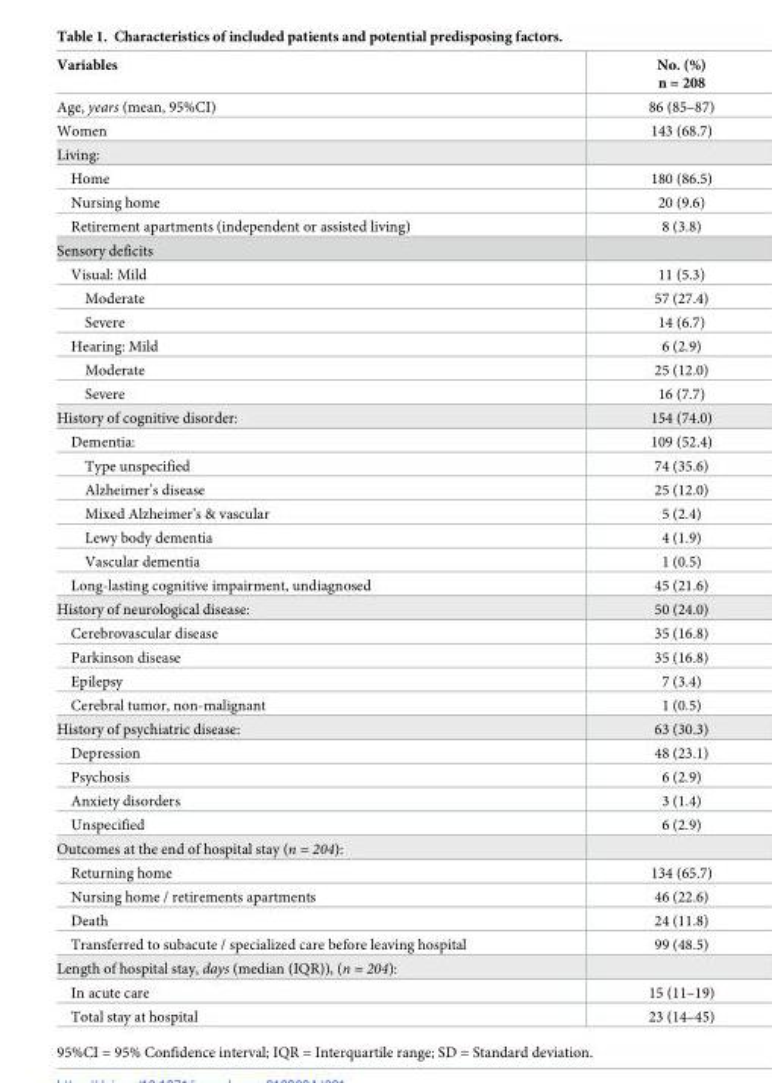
<table><thead><tr><td>Variables</td><td>No. (%) n = 208</td></tr></thead><tbody><tr><td>Age, years (mean, 95%CI)</td><td>86 (85–87)</td></tr><tr><td>Women</td><td>143 (68.7)</td></tr><tr><td colspan="2">Living:</td></tr><tr><td>Home</td><td>180 (86.5)</td></tr><tr><td>Nursing home</td><td>20 (9.6)</td></tr><tr><td>Retirement apartments (independent or assisted living)</td><td>8 (3.8)</td></tr><tr><td colspan="2">Sensory deficits</td></tr><tr><td>Visual: Mild</td><td>11 (5.3)</td></tr><tr><td>Moderate</td><td>57 (27.4)</td></tr><tr><td>Severe</td><td>14 (6.7)</td></tr><tr><td>Hearing: Mild</td><td>6 (2.9)</td></tr><tr><td>Moderate</td><td>25 (12.0)</td></tr><tr><td>Severe</td><td>16 (7.7)</td></tr><tr><td>History of cognitive disorder:</td><td>154 (74.0)</td></tr><tr><td>Dementia:</td><td>109 (52.4)</td></tr><tr><td>Type unspecified</td><td>74 (35.6)</td></tr><tr><td>Alzheimer’s disease</td><td>25 (12.0)</td></tr><tr><td>Mixed Alzheimer’s &amp; vascular</td><td>5 (2.4)</td></tr><tr><td>Lewy body dementia</td><td>4 (1.9)</td></tr><tr><td>Vascular dementia</td><td>1 (0.5)</td></tr><tr><td>Long-lasting cognitive impairment, undiagnosed</td><td>45 (21.6)</td></tr><tr><td>History of neurological disease:</td><td>50 (24.0)</td></tr><tr><td>Cerebrovascular disease</td><td>35 (16.8)</td></tr><tr><td>Parkinson disease</td><td>35 (16.8)</td></tr><tr><td>Epilepsy</td><td>7 (3.4)</td></tr><tr><td>Cerebral tumor, non-malignant</td><td>1 (0.5)</td></tr><tr><td>History of psychiatric disease:</td><td>63 (30.3)</td></tr><tr><td>Depression</td><td>48 (23.1)</td></tr><tr><td>Psychosis</td><td>6 (2.9)</td></tr><tr><td>Anxiety disorders</td><td>3 (1.4)</td></tr><tr><td>Unspecified</td><td>6 (2.9)</td></tr><tr><td colspan="2">Outcomes at the end of hospital stay (n = 204):</td></tr><tr><td>Returning home</td><td>134 (65.7)</td></tr><tr><td>Nursing home / retirements apartments</td><td>46 (22.6)</td></tr><tr><td>Death</td><td>24 (11.8)</td></tr><tr><td>Transferred to subacute / specialized care before leaving hospital</td><td>99 (48.5)</td></tr><tr><td colspan="2">Length of hospital stay, days (median (IQR)), (n = 204):</td></tr><tr><td>In acute care</td><td>15 (11–19)</td></tr><tr><td>Total stay at hospital</td><td>23 (14–45)</td></tr></tbody></table>